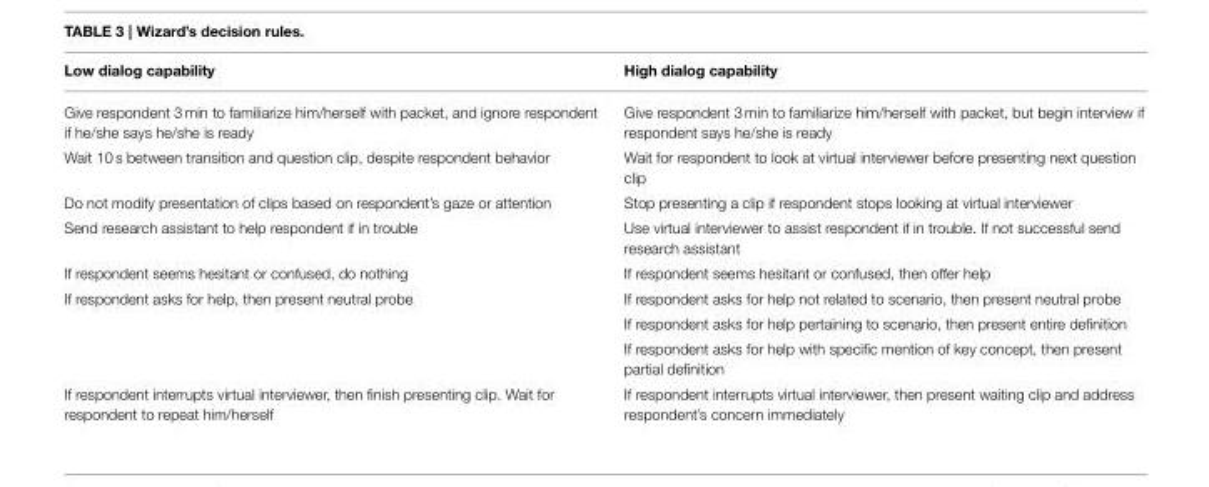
<table><thead><tr><td>Low dialog capability</td><td>High dialog capability</td></tr></thead><tbody><tr><td>Give respondent 3 min to familiarize him/herself with packet, and ignore respondent if he/she says he/she is ready</td><td>Give respondent 3 min to familiarize him/herself with packet, but begin interview if respondent says he/she is ready</td></tr><tr><td>Wait 10 s between transition and question clip, despite respondent behavior</td><td>Wait for respondent to look at virtual interviewer before presenting next question clip</td></tr><tr><td>Do not modify presentation of clips based on respondent’s gaze or attention</td><td>Stop presenting a clip if respondent stops looking at virtual interviewer</td></tr><tr><td>Send research assistant to help respondent if in trouble</td><td>Use virtual interviewer to assist respondent if in trouble. If not successful send research assistant</td></tr><tr><td>If respondent seems hesitant or confused, do nothing</td><td>If respondent seems hesitant or confused, then offer help</td></tr><tr><td rowspan="3">If respondent asks for help, then present neutral probe</td><td>If respondent asks for help not related to scenario, then present neutral probe</td></tr><tr><td>If respondent asks for help pertaining to scenario, then present entire definition</td></tr><tr><td>If respondent asks for help with specific mention of key concept, then present partial definition</td></tr><tr><td>If respondent interrupts virtual interviewer, then finish presenting clip. Wait for respondent to repeat him/herself</td><td>If respondent interrupts virtual interviewer, then present waiting clip and address respondent’s concern immediately</td></tr></tbody></table>